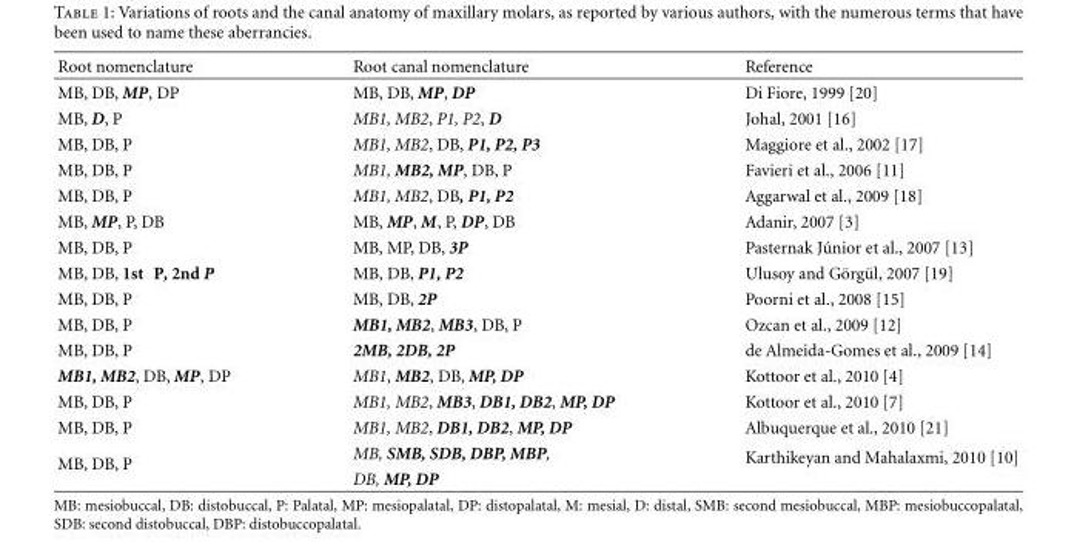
<table><thead><tr><td>Root nomenclature</td><td>Root canal nomenclature</td><td>Reference</td></tr></thead><tbody><tr><td>MB, DB, MP, DP</td><td>MB, DB, MP, DP</td><td>Di Fiore, 1999 [20]</td></tr><tr><td>MB, D, P</td><td>MB1, MB2, P1, P2, D</td><td>Johal, 2001 [16]</td></tr><tr><td>MB, DB, P</td><td>MB1, MB2, DB, P1, P2, P3</td><td>Maggiore et al., 2002 [17]</td></tr><tr><td>MB, DB, P</td><td>MB1, MB2, MP, DB, P</td><td>Favieri et al., 2006 [11]</td></tr><tr><td>MB, DB, P</td><td>MB1, MB2, DB, P1, P2</td><td>Aggarwal et al., 2009 [18]</td></tr><tr><td>MB, MP, P, DB</td><td>MB, MP, M, P, DP, DB</td><td>Adanir, 2007 [3]</td></tr><tr><td>MB, DB, P</td><td>MB, MP, DB, 3P</td><td>Pasternak J´unior et al., 2007 [13]</td></tr><tr><td>MB, DB, 1st P, 2nd P</td><td>MB, DB, P1, P2</td><td>Ulusoy and G¨org¨ul, 2007 [19]</td></tr><tr><td>MB, DB, P</td><td>MB, DB, 2P</td><td>Poorni et al., 2008 [15]</td></tr><tr><td>MB, DB, P</td><td>MB1, MB2, MB3, DB, P</td><td>Ozcan et al., 2009 [12]</td></tr><tr><td>MB, DB, P</td><td>2MB, 2DB, 2P</td><td>de Almeida-Gomes et al., 2009 [14]</td></tr><tr><td>MB1, MB2, DB, MP, DP</td><td>MB1, MB2, DB, MP, DP</td><td>Kottoor et al., 2010 [4]</td></tr><tr><td>MB, DB, P</td><td>MB1, MB2, MB3, DB1, DB2, MP, DP</td><td>Kottoor et al., 2010 [7]</td></tr><tr><td>MB, DB, P</td><td>MB1, MB2, DB1, DB2, MP, DP</td><td>Albuquerque et al., 2010 [21]</td></tr><tr><td rowspan="2">MB, DB, P</td><td>MB, SMB, SDB, DBP, MBP,</td><td rowspan="2">Karthikeyan and Mahalaxmi, 2010 [10]</td></tr><tr><td>DB, MP, DP</td></tr></tbody></table>